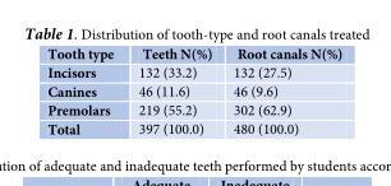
<table><thead><tr><td>Tooth type</td><td>Teeth N(%)</td><td>Root canals N(%)</td></tr></thead><tbody><tr><td>Incisors</td><td>132 (33.2)</td><td>132 (27.5)</td></tr><tr><td>Canines</td><td>46 (11.6)</td><td>46 (9.6)</td></tr><tr><td>Premolars</td><td>219 (55.2)</td><td>302 (62.9)</td></tr><tr><td>Total</td><td>397 (100.0)</td><td>480 (100.0)</td></tr></tbody></table>